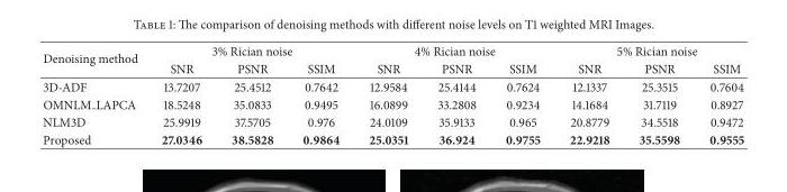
<table><thead><tr><td rowspan="2">Denoising method</td><td colspan="3">3% Rician noise</td><td colspan="3">4% Rician noise</td><td colspan="3">5% Rician noise</td></tr><tr><td>SNR</td><td>PSNR</td><td>SSIM</td><td>SNR</td><td>PSNR</td><td>SSIM</td><td>SNR</td><td>PSNR</td><td>SSIM</td></tr></thead><tbody><tr><td>3D-ADF</td><td>13.7207</td><td>25.4512</td><td>0.7642</td><td>12.9584</td><td>25.4144</td><td>0.7624</td><td>12.1337</td><td>25.3515</td><td>0.7604</td></tr><tr><td>OMNLM LAPCA</td><td>18.5248</td><td>35.0833</td><td>0.9495</td><td>16.0899</td><td>33.2808</td><td>0.9234</td><td>14.1684</td><td>31.7119</td><td>0.8927</td></tr><tr><td>NLM3D</td><td>25.9919</td><td>37.5705</td><td>0.976</td><td>24.0109</td><td>35.9133</td><td>0.965</td><td>20.8779</td><td>34.5518</td><td>0.9472</td></tr><tr><td>Proposed</td><td>27.0346</td><td>38.5828</td><td>0.9864</td><td>25.0351</td><td>36.924</td><td>0.9755</td><td>22.9218</td><td>35.5598</td><td>0.9555</td></tr></tbody></table>